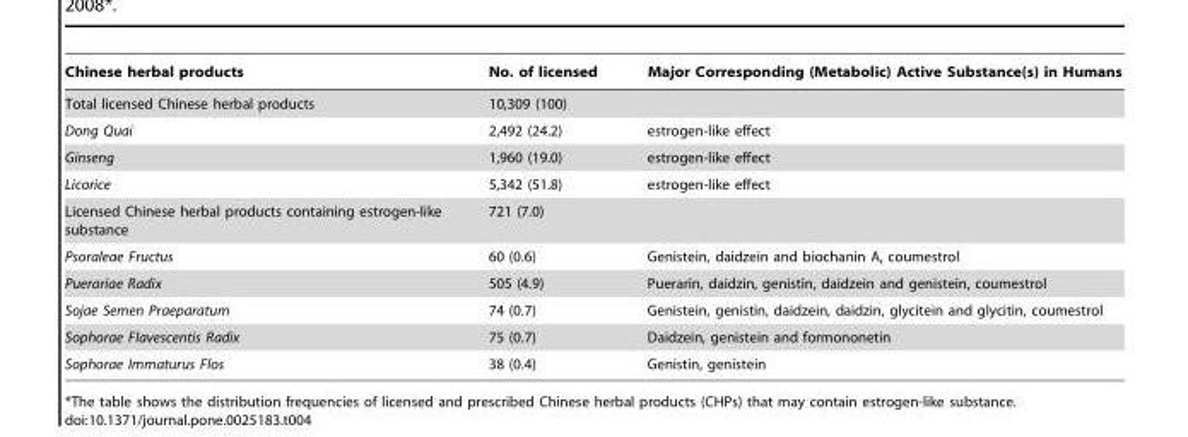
<table><thead><tr><td>Chinese herbal products</td><td>No. of licensed</td><td>Major Corresponding (Metabolic) Active Substance(s) in Humans</td></tr></thead><tbody><tr><td>Total licensed Chinese herbal products</td><td>10,309 (100)</td><td></td></tr><tr><td>Dong Quai</td><td>2,492 (24.2)</td><td>estrogen-like effect</td></tr><tr><td>Ginseng</td><td>1,960 (19.0)</td><td>estrogen-like effect</td></tr><tr><td>Licorice</td><td>5,342 (51.8)</td><td>estrogen-like effect</td></tr><tr><td>Licensed Chinese herbal products containing estrogen-like substance</td><td>721 (7.0)</td><td></td></tr><tr><td>Psoraleae Fructus</td><td>60 (0.6)</td><td>Genistein, daidzein and biochanin A, coumestrol</td></tr><tr><td>Puerariae Radix</td><td>505 (4.9)</td><td>Puerarin, daidzin, genistin, daidzein and genistein, coumestrol</td></tr><tr><td>Sojae Semen Praeparatum</td><td>74 (0.7)</td><td>Genistein, genistin, daidzein, daidzin, glycitein and glycitin, coumestrol</td></tr><tr><td>Sophorae Flavescentis Radix</td><td>75 (0.7)</td><td>Daidzein, genistein and formononetin</td></tr><tr><td>Sophorae Immaturus Flos</td><td>38 (0.4)</td><td>Genistin, genistein</td></tr></tbody></table>